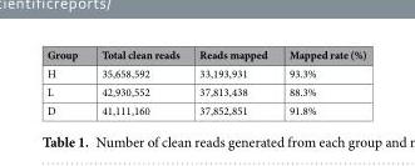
<table><thead><tr><td>Group</td><td>Total clean reads</td><td>Reads mapped</td><td>Mapped rate (%)</td></tr></thead><tbody><tr><td>H</td><td>35,658,592</td><td>33,193,931</td><td>93.3%</td></tr><tr><td>L</td><td>42,930,552</td><td>37,813,438</td><td>88.3%</td></tr><tr><td>D</td><td>41,111,160</td><td>37,852,851</td><td>91.8%</td></tr></tbody></table>